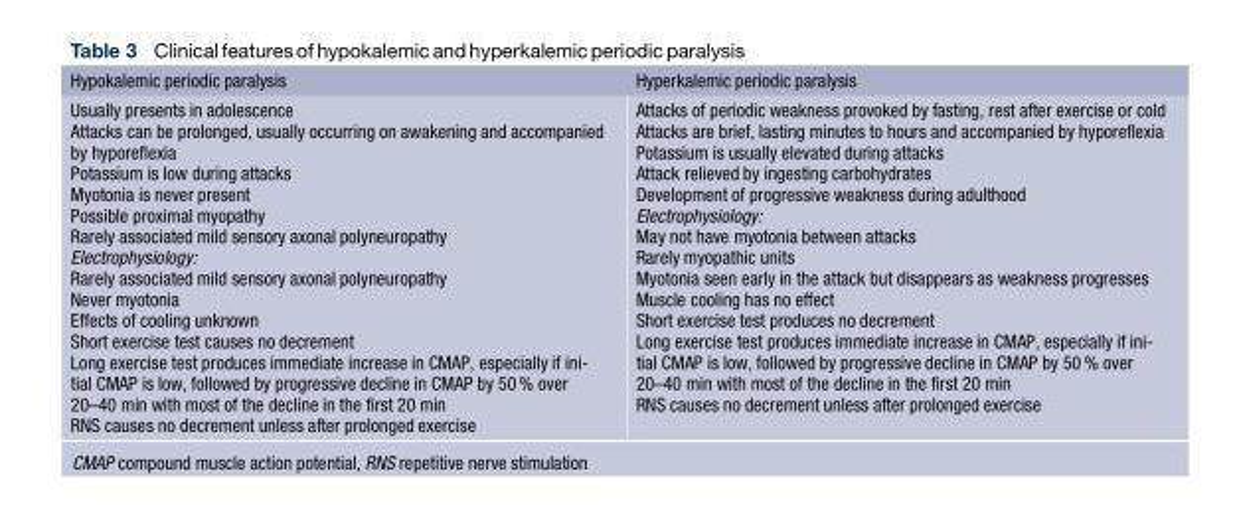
<table><thead><tr><td>Hypokalemic periodic paralysis</td><td>Hyperkalemic periodic paralysis</td></tr></thead><tbody><tr><td>Usually presents in adolescence Attacks can be prolonged, usually occurring on awakening and accompanied by hyporeflexia Potassium is low during attacks Myotonia is never present Possible proximal myopathy Rarely associated mild sensory axonal polyneuropathy Electrophysiology: Rarely associated mild sensory axonal polyneuropathy Never myotonia Effects of cooling unknown Short exercise test causes no decrement Long exercise test produces immediate increase in CMAP, especially if ini- tial CMAP is low, followed by progressive decline in CMAP by 50 % over 20–40 min with most of the decline in the first 20 min RNS causes no decrement unless after prolonged exercise</td><td>Attacks of periodic weakness provoked by fasting, rest after exercise or cold Attacks are brief, lasting minutes to hours and accompanied by hyporeflexia Potassium is usually elevated during attacks Attack relieved by ingesting carbohydrates Development of progressive weakness during adulthood Electrophysiology: May not have myotonia between attacks Rarely myopathic units Myotonia seen early in the attack but disappears as weakness progresses Muscle cooling has no effect Short exercise test produces no decrement Long exercise test produces immediate increase in CMAP, especially if ini- tial CMAP is low, followed by progressive decline in CMAP by 50 % over 20–40 min with most of the decline in the first 20 min RNS causes no decrement unless after prolonged exercise</td></tr></tbody></table>